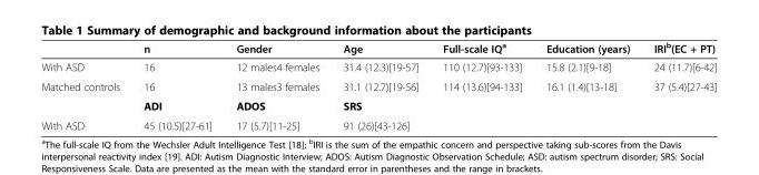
<table><thead><tr><td></td><td>n</td><td>Gender</td><td>Age</td><td>Full-scale IQ<sup>a</sup></td><td>Education (years)</td><td>IRI<sup>b</sup>(EC + PT)</td></tr></thead><tbody><tr><td>With ASD</td><td>16</td><td>12 males4 females</td><td>31.4 (12.3)[19-57]</td><td>110 (12.7)[93-133]</td><td>15.8 (2.1)[9-18]</td><td>24 (11.7)[6-42]</td></tr><tr><td rowspan="2">Matched controls</td><td>16</td><td>13 males3 females</td><td>31.1 (12.7)[19-56]</td><td>114 (13.6)[94-133]</td><td>16.1 (1.4)[13-18]</td><td>37 (5.4)[27-43]</td></tr><tr><td>ADI</td><td>ADOS</td><td>SRS</td><td></td><td></td><td></td></tr><tr><td>With ASD</td><td>45 (10.5)[27-61]</td><td>17 (5.7)[11-25]</td><td>91 (26)[43-126]</td><td></td><td></td><td></td></tr></tbody></table>